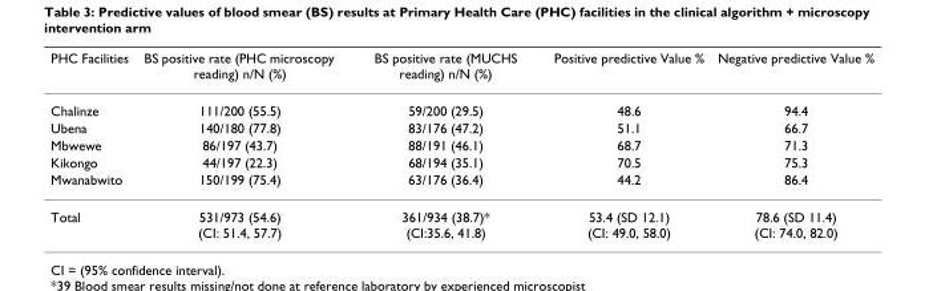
<table><thead><tr><td>PHC Facilities</td><td>BS positive rate (PHC microscopy reading) n/N (%)</td><td>BS positive rate (MUCHS reading) n/N (%)</td><td>Positive predictive Value %</td><td>Negative predictive Value %</td></tr></thead><tbody><tr><td>Chalinze</td><td>111/200 (55.5)</td><td>59/200 (29.5)</td><td>48.6</td><td>94.4</td></tr><tr><td>Ubena</td><td>140/180 (77.8)</td><td>83/176 (47.2)</td><td>51.1</td><td>66.7</td></tr><tr><td>Mbwewe</td><td>86/197 (43.7)</td><td>88/191 (46.1)</td><td>68.7</td><td>71.3</td></tr><tr><td>Kikongo</td><td>44/197 (22.3)</td><td>68/194 (35.1)</td><td>70.5</td><td>75.3</td></tr><tr><td>Mwanabwito</td><td>150/199 (75.4)</td><td>63/176 (36.4)</td><td>44.2</td><td>86.4</td></tr><tr><td>Total</td><td>531/973 (54.6) (CI: 51.4, 57.7)</td><td>361/934 (38.7)* (CI:35.6, 41.8)</td><td>53.4 (SD 12.1) (CI: 49.0, 58.0)</td><td>78.6 (SD 11.4) (CI: 74.0, 82.0)</td></tr></tbody></table>